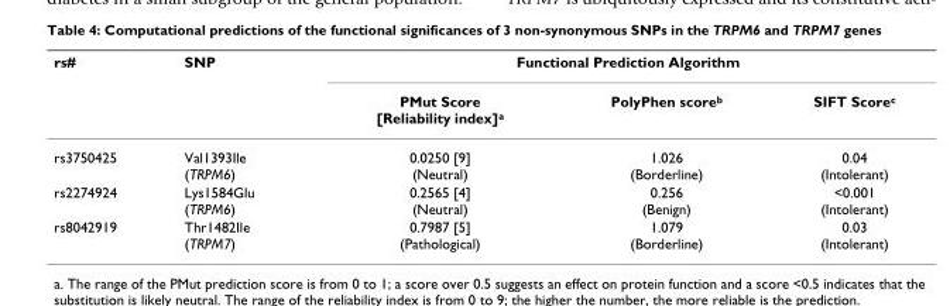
<table><thead><tr><td rowspan="2">rs#</td><td rowspan="2">SNP</td><td colspan="3">Functional Prediction Algorithm</td></tr><tr><td>PMut Score [Reliability index]<sup>a</sup></td><td>PolyPhen score<sup>b</sup></td><td>SIFT Score<sup>c</sup></td></tr></thead><tbody><tr><td>rs3750425</td><td>Val1393Ile (TRPM6)</td><td>0.0250 [9] (Neutral)</td><td>1.026 (Borderline)</td><td>0.04 (Intolerant)</td></tr><tr><td>rs2274924</td><td>Lys1584Glu (TRPM6)</td><td>0.2565 [4] (Neutral)</td><td>0.256 (Benign)</td><td>&lt;0.001 (Intolerant)</td></tr><tr><td>rs8042919</td><td>Thr1482Ile (TRPM7)</td><td>0.7987 [5] (Pathological)</td><td>1.079 (Borderline)</td><td>0.03 (Intolerant)</td></tr></tbody></table>